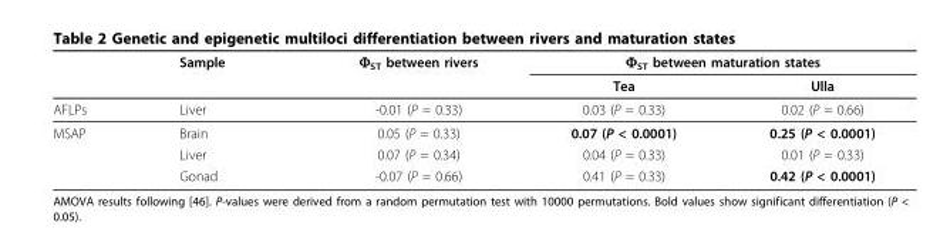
<table><thead><tr><td rowspan="2"></td><td rowspan="2">Sample</td><td rowspan="2">Φ<sub>ST</sub> between rivers</td><td colspan="2">Φ<sub>ST</sub> between maturation states</td></tr><tr><td>Tea</td><td>Ulla</td></tr></thead><tbody><tr><td>AFLPs</td><td>Liver</td><td>-0.01 (P = 0.33)</td><td>0.03 (P = 0.33)</td><td>0.02 (P = 0.66)</td></tr><tr><td rowspan="3">MSAP</td><td>Brain</td><td>0.05 (P = 0.33)</td><td>0.07 (P &lt; 0.0001)</td><td>0.25 (P &lt; 0.0001)</td></tr><tr><td>Liver</td><td>0.07 (P = 0.34)</td><td>0.04 (P = 0.33)</td><td>0.01 (P = 0.33)</td></tr><tr><td>Gonad</td><td>-0.07 (P = 0.66)</td><td>0.41 (P = 0.33)</td><td>0.42 (P &lt; 0.0001)</td></tr></tbody></table>